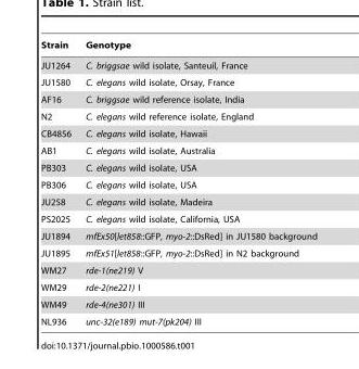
<table><thead><tr><td>Strain</td><td>Genotype</td></tr></thead><tbody><tr><td>JU1264</td><td>C. briggsae wild isolate, Santeuil, France</td></tr><tr><td>JU1580</td><td>C. elegans wild isolate, Orsay, France</td></tr><tr><td>AF16</td><td>C. briggsae wild reference isolate, India</td></tr><tr><td>N2</td><td>C. elegans wild reference isolate, England</td></tr><tr><td>CB4856</td><td>C. elegans wild isolate, Hawaii</td></tr><tr><td>AB1</td><td>C. elegans wild isolate, Australia</td></tr><tr><td>PB303</td><td>C. elegans wild isolate, USA</td></tr><tr><td>PB306</td><td>C. elegans wild isolate, USA</td></tr><tr><td>JU258</td><td>C. elegans wild isolate, Madeira</td></tr><tr><td>PS2025</td><td>C. elegans wild isolate, California, USA</td></tr><tr><td>JU1894</td><td>mfEx50[let858::GFP, myo-2::DsRed] in JU1580 background</td></tr><tr><td>JU1895</td><td>mfEx51[let858::GFP, myo-2::DsRed] in N2 background</td></tr><tr><td>WM27</td><td>rde-1(ne219) V</td></tr><tr><td>WM29</td><td>rde-2(ne221) I</td></tr><tr><td>WM49</td><td>rde-4(ne301) III</td></tr><tr><td>NL936</td><td>unc-32(e189) mut-7(pk204) III</td></tr></tbody></table>